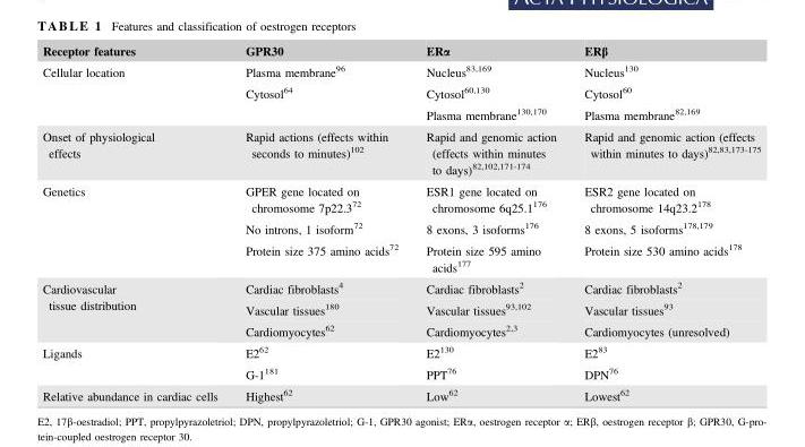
<table><thead><tr><td>Receptor features</td><td>GPR30</td><td>ERα</td><td>ERβ</td></tr></thead><tbody><tr><td rowspan="3">Cellular location</td><td>Plasma membrane<sup>96</sup></td><td>Nucleus<sup>83</sup>,<sup>169</sup></td><td>Nucleus<sup>130</sup></td></tr><tr><td rowspan="2">Cytosol<sup>64</sup></td><td>Cytosol<sup>60</sup>,<sup>130</sup></td><td>Cytosol<sup>60</sup></td></tr><tr><td>Plasma membrane<sup>130</sup>,<sup>170</sup></td><td>Plasma membrane<sup>82</sup>,<sup>169</sup></td></tr><tr><td>Onset of physiological effects</td><td>Rapid actions (effects within seconds to minutes)<sup>102</sup></td><td>Rapid and genomic action (effects within minutes to days)82,102,171-174</td><td>Rapid and genomic action (effects within minutes to days)82,83,173-175</td></tr><tr><td rowspan="3">Genetics</td><td>GPER gene located on chromosome 7p22.3<sup>72</sup></td><td>ESR1 gene located on chromosome 6q25.1<sup>176</sup></td><td>ESR2 gene located on chromosome 14q23.2<sup>178</sup></td></tr><tr><td>No introns, 1 isoform<sup>72</sup></td><td>8 exons, 3 isoforms<sup>176</sup></td><td>8 exons, 5 isoforms<sup>178</sup>,<sup>179</sup></td></tr><tr><td>Protein size 375 amino acids<sup>72</sup></td><td>Protein size 595 amino acids<sup>177</sup></td><td>Protein size 530 amino acids<sup>178</sup></td></tr><tr><td rowspan="3">Cardiovascular tissue distribution</td><td>Cardiac fibroblasts<sup>4</sup></td><td>Cardiac fibroblasts<sup>2</sup></td><td>Cardiac fibroblasts<sup>2</sup></td></tr><tr><td>Vascular tissues<sup>180</sup></td><td>Vascular tissues<sup>93</sup>,<sup>102</sup></td><td>Vascular tissues<sup>93</sup></td></tr><tr><td>Cardiomyocytes<sup>62</sup></td><td>Cardiomyocytes<sup>2</sup>,<sup>3</sup></td><td>Cardiomyocytes (unresolved)</td></tr><tr><td rowspan="2">Ligands</td><td>E2<sup>62</sup></td><td>E2<sup>130</sup></td><td>E2<sup>83</sup></td></tr><tr><td>G-1<sup>181</sup></td><td>PPT<sup>76</sup></td><td>DPN<sup>76</sup></td></tr><tr><td>Relative abundance in cardiac cells</td><td>Highest<sup>62</sup></td><td>Low<sup>62</sup></td><td>Lowest<sup>62</sup></td></tr></tbody></table>